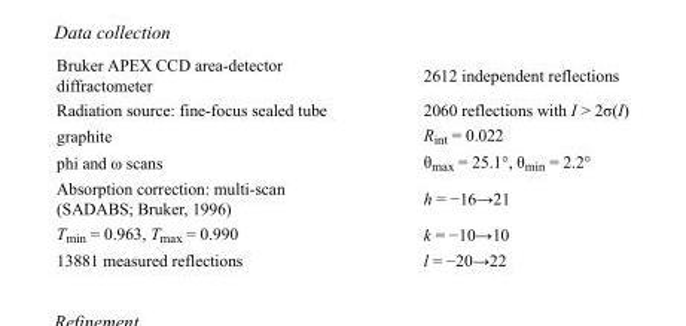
<table><tbody><tr><td>Bruker APEX CCD area-detector diffractometer</td><td>2612 independent reflections</td></tr><tr><td>Radiation source: fine-focus sealed tube</td><td>2060 reflections with I &gt; 2σ(I)</td></tr><tr><td>graphite</td><td>R<sub>int</sub> = 0.022</td></tr><tr><td>phi and ω scans</td><td>θ<sub>max</sub> = 25.1°, θ<sub>min</sub> = 2.2°</td></tr><tr><td>Absorption correction: multi-scan (SADABS; Bruker, 1996)</td><td>h = −16→21</td></tr><tr><td>T<sub>min</sub> = 0.963, T<sub>max</sub> = 0.990</td><td>k = −10→10</td></tr><tr><td>13881 measured reflections</td><td>l = −20→22</td></tr></tbody></table>